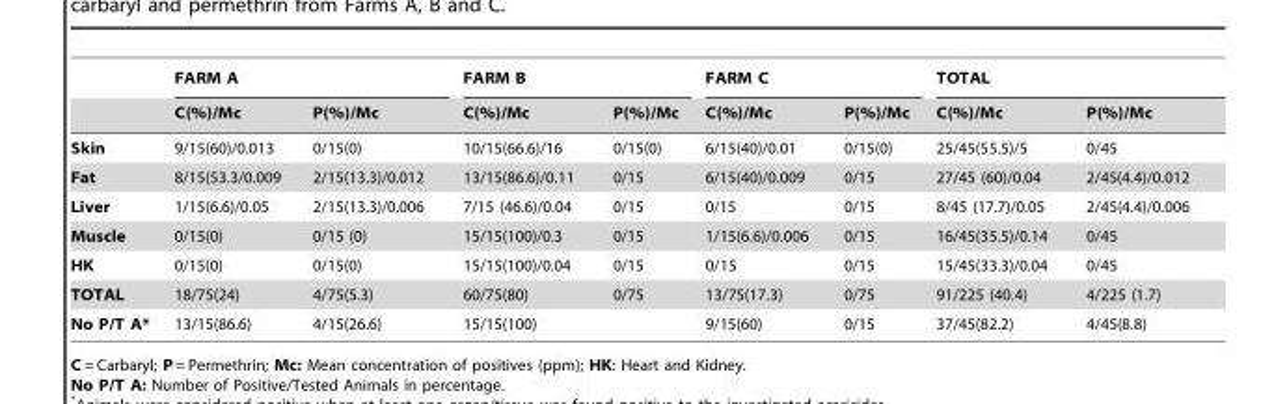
<table><thead><tr><td rowspan="2"></td><td colspan="2">FARM A</td><td colspan="2">FARM B</td><td colspan="2">FARM C</td><td colspan="2">TOTAL</td></tr><tr><td>C(%)/Mc</td><td>P(%)/Mc</td><td>C(%)/Mc</td><td>P(%)/Mc</td><td>C(%)/Mc</td><td>P(%)/Mc</td><td>C(%)/Mc</td><td>P(%)/Mc</td></tr></thead><tbody><tr><td>Skin</td><td>9/15(60)/0.013</td><td>0/15(0)</td><td>10/15(66.6)/16</td><td>0/15(0)</td><td>6/15(40)/0.01</td><td>0/15(0)</td><td>25/45(55.5)/5</td><td>0/45</td></tr><tr><td>Fat</td><td>8/15(53.3/0.009</td><td>2/15(13.3)/0.012</td><td>13/15(86.6)/0.11</td><td>0/15</td><td>6/15(40)/0.009</td><td>0/15</td><td>27/45 (60)/0.04</td><td>2/45(4.4)/0.012</td></tr><tr><td>Liver</td><td>1/15(6.6)/0.05</td><td>2/15(13.3)/0.006</td><td>7/15 (46.6)/0.04</td><td>0/15</td><td>0/15</td><td>0/15</td><td>8/45 (17.7)/0.05</td><td>2/45(4.4)/0.006</td></tr><tr><td>Muscle</td><td>0/15(0)</td><td>0/15 (0)</td><td>15/15(100)/0.3</td><td>0/15</td><td>1/15(6.6)/0.006</td><td>0/15</td><td>16/45(35.5)/0.14</td><td>0/45</td></tr><tr><td>HK</td><td>0/15(0)</td><td>0/15(0)</td><td>15/15(100)/0.04</td><td>0/15</td><td>0/15</td><td>0/15</td><td>15/45(33.3)/0.04</td><td>0/45</td></tr><tr><td>TOTAL</td><td>18/75(24)</td><td>4/75(5.3)</td><td>60/75(80)</td><td>0/75</td><td>13/75(17.3)</td><td>0/75</td><td>91/225 (40.4)</td><td>4/225 (1.7)</td></tr><tr><td>No P/T A*</td><td>13/15(86.6)</td><td>4/15(26.6)</td><td>15/15(100)</td><td></td><td>9/15(60)</td><td>0/15</td><td>37/45(82.2)</td><td>4/45(8.8)</td></tr></tbody></table>